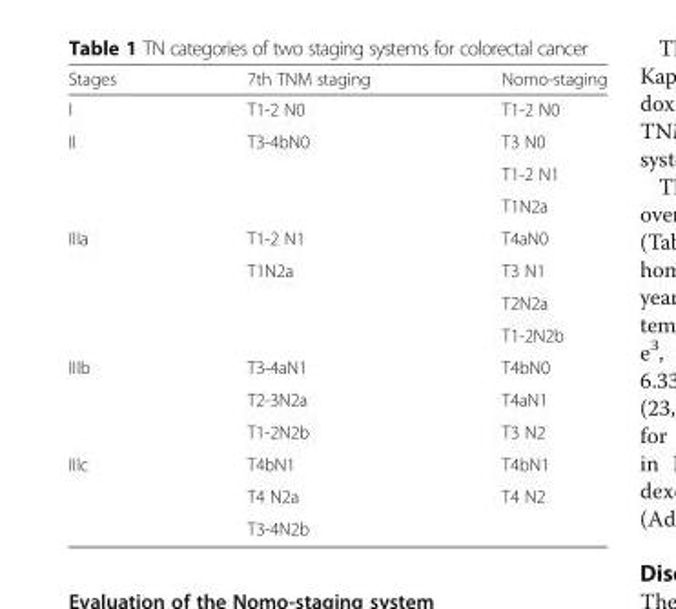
<table><thead><tr><td>Stages</td><td>7th TNM staging</td><td>Nomo-staging</td></tr></thead><tbody><tr><td>I</td><td>T1-2 N0</td><td>T1-2 N0</td></tr><tr><td rowspan="3">II</td><td>T3-4bN0</td><td>T3 N0</td></tr><tr><td></td><td>T1-2 N1</td></tr><tr><td></td><td>T1N2a</td></tr><tr><td rowspan="4">IIIa</td><td>T1-2 N1</td><td>T4aN0</td></tr><tr><td>T1N2a</td><td>T3 N1</td></tr><tr><td></td><td>T2N2a</td></tr><tr><td></td><td>T1-2N2b</td></tr><tr><td rowspan="3">IIIb</td><td>T3-4aN1</td><td>T4bN0</td></tr><tr><td>T2-3N2a</td><td>T4aN1</td></tr><tr><td>T1-2N2b</td><td>T3 N2</td></tr><tr><td rowspan="3">IIIc</td><td>T4bN1</td><td>T4bN1</td></tr><tr><td>T4 N2a</td><td>T4 N2</td></tr><tr><td>T3-4N2b</td><td></td></tr></tbody></table>